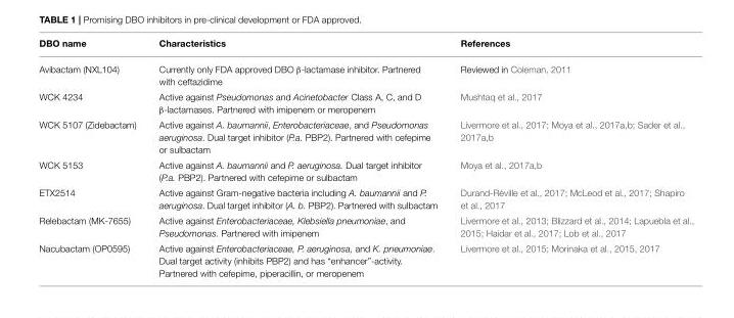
<table><thead><tr><td>DBO name</td><td>Characteristics</td><td>References</td></tr></thead><tbody><tr><td>Avibactam (NXL104)</td><td>Currently only FDA approved DBO β-lactamase inhibitor. Partnered with ceftazidime</td><td>Reviewed in Coleman, 2011</td></tr><tr><td>WCK 4234</td><td>Active against Pseudomonas and Acinetobacter Class A, C, and D β-lactamases. Partnered with imipenem or meropenem</td><td>Mushtaq et al., 2017</td></tr><tr><td>WCK 5107 (Zidebactam)</td><td>Active against A. baumannii, Enterobacteriaceae, and Pseudomonas aeruginosa. Dual target inhibitor (P.a. PBP2). Partnered with cefepime or sulbactam</td><td>Livermore et al., 2017; Moya et al., 2017a,b; Sader et al., 2017a,b</td></tr><tr><td>WCK 5153</td><td>Active against A. baumannii and P. aeruginosa. Dual target inhibitor (P.a. PBP2). Partnered with cefepime or sulbactam</td><td>Moya et al., 2017a,b</td></tr><tr><td>ETX2514</td><td>Active against Gram-negative bacteria including A. baumannii and P. aeruginosa. Dual target inhibitor (A. b. PBP2). Partnered with sulbactam</td><td>Durand-Réville et al., 2017; McLeod et al., 2017; Shapiro et al., 2017</td></tr><tr><td>Relebactam (MK-7655)</td><td>Active against Enterobacteriaceae, Klebsiella pneumoniae, and Pseudomonas. Partnered with imipenem</td><td>Livermore et al., 2013; Blizzard et al., 2014; Lapuebla et al., 2015; Haidar et al., 2017; Lob et al., 2017</td></tr><tr><td>Nacubactam (OP0595)</td><td>Active against Enterobacteriaceae, P. aeruginosa, and K. pneumoniae. Dual target activity (inhibits PBP2) and has “enhancer”-activity. Partnered with cefepime, piperacillin, or meropenem</td><td>Livermore et al., 2015; Morinaka et al., 2015, 2017</td></tr></tbody></table>